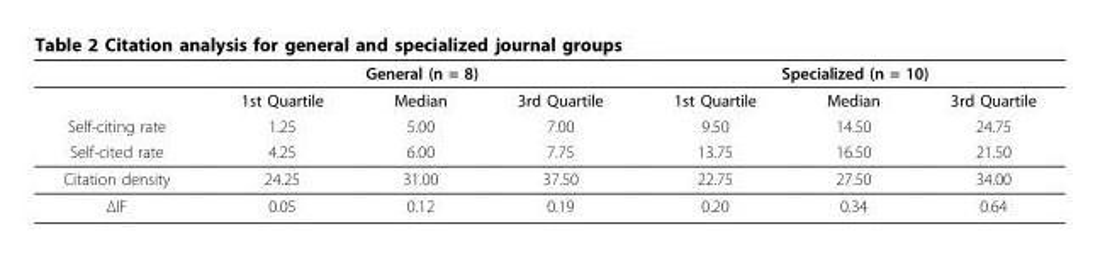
<table><thead><tr><td rowspan="3">Self-citing rate</td><td colspan="3">General (n = 8)</td><td colspan="3">Specialized (n = 10)</td></tr><tr><td rowspan="2">1st Quartile 1.25</td><td rowspan="2">Median 5.00</td><td rowspan="2">3rd Quartile 7.00</td><td rowspan="2">1st Quartile 9.50</td><td rowspan="2">Median 14.50</td><td rowspan="2">3rd Quartile 24.75</td></tr><tr></tr></thead><tbody><tr><td>Self-cited rate</td><td>4.25</td><td>6.00</td><td>7.75</td><td>13.75</td><td>16.50</td><td>21.50</td></tr><tr><td>Citation density</td><td>24.25</td><td>31.00</td><td>37.50</td><td>22.75</td><td>27.50</td><td>34.00</td></tr><tr><td>ΔIF</td><td>0.05</td><td>0.12</td><td>0.19</td><td>0.20</td><td>0.34</td><td>0.64</td></tr></tbody></table>